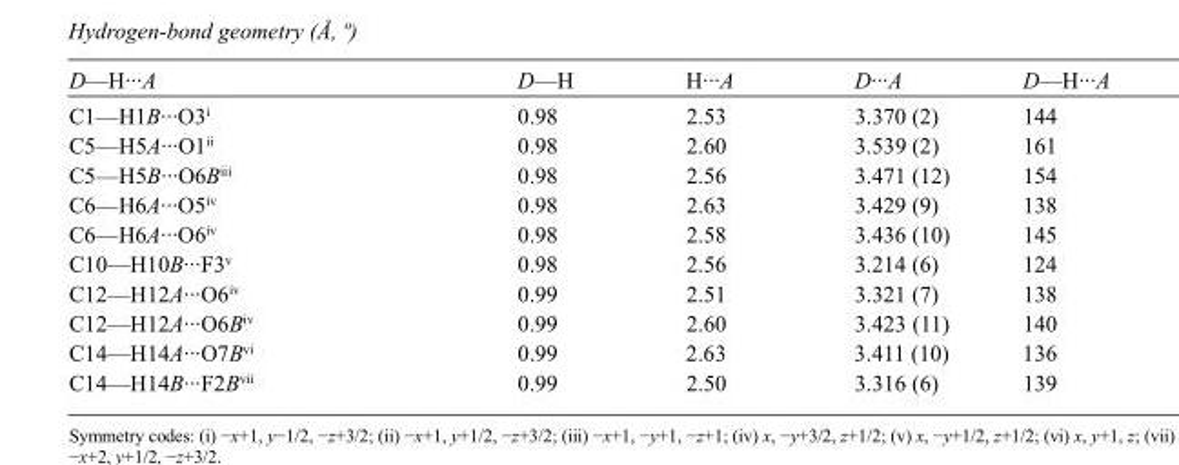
<table><tbody><tr><td>D—H···A</td><td>D—H</td><td>H···A</td><td>D···A</td><td>D—H···A</td></tr><tr><td>C1—H1B···O3<sup>i</sup></td><td>0.98</td><td>2.53</td><td>3.370 (2)</td><td>144</td></tr><tr><td>C5—H5A···O1<sup>ii</sup></td><td>0.98</td><td>2.60</td><td>3.539 (2)</td><td>161</td></tr><tr><td>C5—H5B···O6B<sup>iii</sup></td><td>0.98</td><td>2.56</td><td>3.471 (12)</td><td>154</td></tr><tr><td>C6—H6A···O5<sup>iv</sup></td><td>0.98</td><td>2.63</td><td>3.429 (9)</td><td>138</td></tr><tr><td>C6—H6A···O6<sup>iv</sup></td><td>0.98</td><td>2.58</td><td>3.436 (10)</td><td>145</td></tr><tr><td>C10—H10B···F3<sup>v</sup></td><td>0.98</td><td>2.56</td><td>3.214 (6)</td><td>124</td></tr><tr><td>C12—H12A···O6<sup>iv</sup></td><td>0.99</td><td>2.51</td><td>3.321 (7)</td><td>138</td></tr><tr><td>C12—H12A···O6B<sup>iv</sup></td><td>0.99</td><td>2.60</td><td>3.423 (11)</td><td>140</td></tr><tr><td>C14—H14A···O7B<sup>vi</sup></td><td>0.99</td><td>2.63</td><td>3.411 (10)</td><td>136</td></tr><tr><td>C14—H14B···F2B<sup>vii</sup></td><td>0.99</td><td>2.50</td><td>3.316 (6)</td><td>139</td></tr></tbody></table>